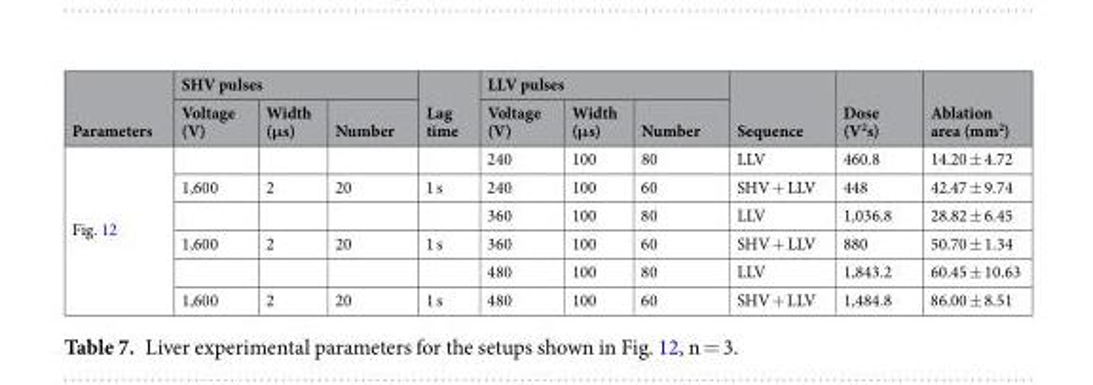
<table><thead><tr><td rowspan="2">Parameters</td><td colspan="3">SHV pulses</td><td rowspan="2">Lag time</td><td colspan="3">LLV pulses</td><td rowspan="2">Sequence</td><td rowspan="2">Dose (V<sup>2</sup>s)</td><td rowspan="2">Ablation area (mm<sup>2</sup>)</td></tr><tr><td>Voltage (V)</td><td>Width (μs)</td><td>Number</td><td>Voltage (V)</td><td>Width (μs)</td><td>Number</td></tr></thead><tbody><tr><td rowspan="6">Fig. 12</td><td></td><td></td><td></td><td></td><td>240</td><td>100</td><td>80</td><td>LLV</td><td>460.8</td><td>14.20 ± 4.72</td></tr><tr><td>1,600</td><td>2</td><td>20</td><td>1 s</td><td>240</td><td>100</td><td>60</td><td>SHV + LLV</td><td>448</td><td>42.47 ± 9.74</td></tr><tr><td></td><td></td><td></td><td></td><td>360</td><td>100</td><td>80</td><td>LLV</td><td>1,036.8</td><td>28.82 ± 6.45</td></tr><tr><td>1,600</td><td>2</td><td>20</td><td>1 s</td><td>360</td><td>100</td><td>60</td><td>SHV + LLV</td><td>880</td><td>50.70 ± 1.34</td></tr><tr><td></td><td></td><td></td><td></td><td>480</td><td>100</td><td>80</td><td>LLV</td><td>1,843.2</td><td>60.45 ± 10.63</td></tr><tr><td>1,600</td><td>2</td><td>20</td><td>1 s</td><td>480</td><td>100</td><td>60</td><td>SHV + LLV</td><td>1,484.8</td><td>86.00 ± 8.51</td></tr></tbody></table>